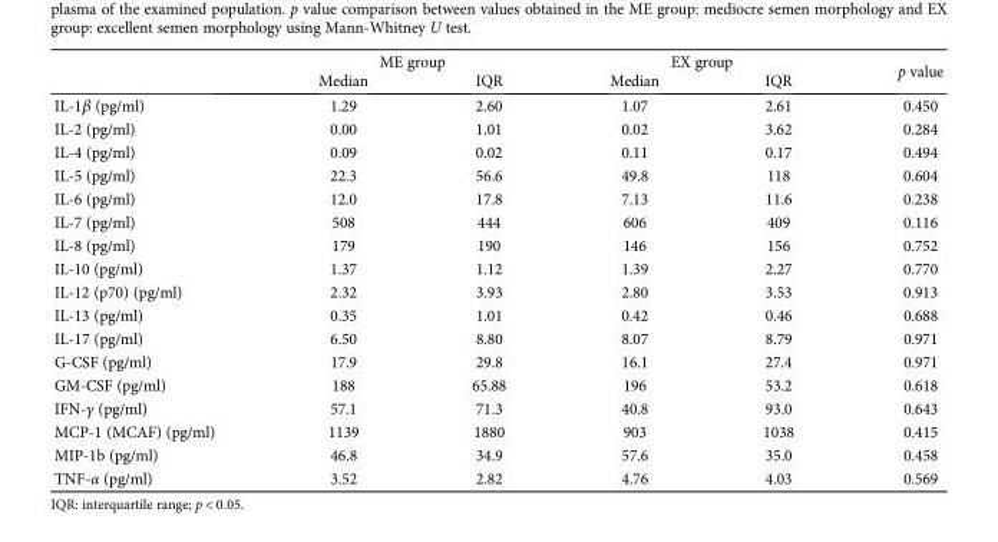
<table><thead><tr><td rowspan="2"></td><td colspan="2">ME group</td><td colspan="2">EX group</td><td rowspan="2">p value</td></tr><tr><td>Median</td><td>IQR</td><td>Median</td><td>IQR</td></tr></thead><tbody><tr><td>IL-1β (pg/ml)</td><td>1.29</td><td>2.60</td><td>1.07</td><td>2.61</td><td>0.450</td></tr><tr><td>IL-2 (pg/ml)</td><td>0.00</td><td>1.01</td><td>0.02</td><td>3.62</td><td>0.284</td></tr><tr><td>IL-4 (pg/ml)</td><td>0.09</td><td>0.02</td><td>0.11</td><td>0.17</td><td>0.494</td></tr><tr><td>IL-5 (pg/ml)</td><td>22.3</td><td>56.6</td><td>49.8</td><td>118</td><td>0.604</td></tr><tr><td>IL-6 (pg/ml)</td><td>12.0</td><td>17.8</td><td>7.13</td><td>11.6</td><td>0.238</td></tr><tr><td>IL-7 (pg/ml)</td><td>508</td><td>444</td><td>606</td><td>409</td><td>0.116</td></tr><tr><td>IL-8 (pg/ml)</td><td>179</td><td>190</td><td>146</td><td>156</td><td>0.752</td></tr><tr><td>IL-10 (pg/ml)</td><td>1.37</td><td>1.12</td><td>1.39</td><td>2.27</td><td>0.770</td></tr><tr><td>IL-12 (p70) (pg/ml)</td><td>2.32</td><td>3.93</td><td>2.80</td><td>3.53</td><td>0.913</td></tr><tr><td>IL-13 (pg/ml)</td><td>0.35</td><td>1.01</td><td>0.42</td><td>0.46</td><td>0.688</td></tr><tr><td>IL-17 (pg/ml)</td><td>6.50</td><td>8.80</td><td>8.07</td><td>8.79</td><td>0.971</td></tr><tr><td>G-CSF (pg/ml)</td><td>17.9</td><td>29.8</td><td>16.1</td><td>27.4</td><td>0.971</td></tr><tr><td>GM-CSF (pg/ml)</td><td>188</td><td>65.88</td><td>196</td><td>53.2</td><td>0.618</td></tr><tr><td>IFN-γ (pg/ml)</td><td>57.1</td><td>71.3</td><td>40.8</td><td>93.0</td><td>0.643</td></tr><tr><td>MCP-1 (MCAF) (pg/ml)</td><td>1139</td><td>1880</td><td>903</td><td>1038</td><td>0.415</td></tr><tr><td>MIP-1b (pg/ml)</td><td>46.8</td><td>34.9</td><td>57.6</td><td>35.0</td><td>0.458</td></tr><tr><td>TNF-α (pg/ml)</td><td>3.52</td><td>2.82</td><td>4.76</td><td>4.03</td><td>0.569</td></tr></tbody></table>